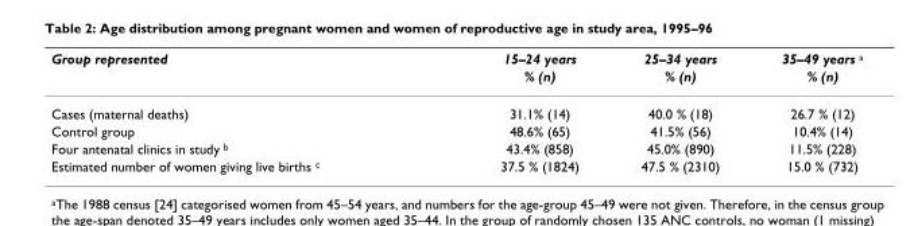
<table><thead><tr><td rowspan="2">Group represented</td><td rowspan="2">15–24 years % (n)</td><td rowspan="2">25–34 years % (n)</td><td rowspan="2">35–49 years <sup>a</sup> % (n)</td></tr><tr></tr></thead><tbody><tr><td>Cases (maternal deaths)</td><td>31.1% (14)</td><td>40.0 % (18)</td><td>26.7 % (12)</td></tr><tr><td>Control group</td><td>48.6% (65)</td><td>41.5% (56)</td><td>10.4% (14)</td></tr><tr><td>Four antenatal clinics in study <sup>b</sup></td><td>43.4% (858)</td><td>45.0% (890)</td><td>11.5% (228)</td></tr><tr><td>Estimated number of women giving live births <sup>c</sup></td><td>37.5 % (1824)</td><td>47.5 % (2310)</td><td>15.0 % (732)</td></tr></tbody></table>